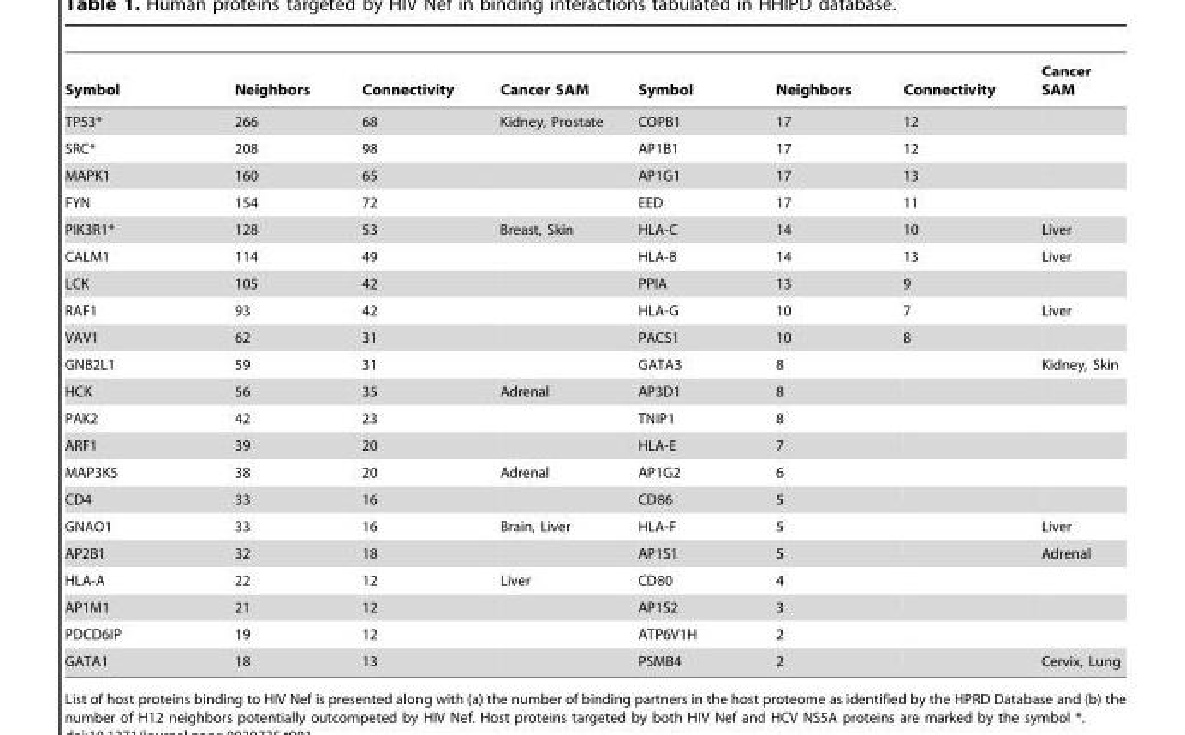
<table><thead><tr><td>Symbol</td><td>Neighbors</td><td>Connectivity</td><td>Cancer SAM</td><td>Symbol</td><td>Neighbors</td><td>Connectivity</td><td>Cancer SAM</td></tr></thead><tbody><tr><td>TP53*</td><td>266</td><td>68</td><td>Kidney, Prostate</td><td>COPB1</td><td>17</td><td>12</td><td></td></tr><tr><td>SRC*</td><td>208</td><td>98</td><td></td><td>AP1B1</td><td>17</td><td>12</td><td></td></tr><tr><td>MAPK1</td><td>160</td><td>65</td><td></td><td>AP1G1</td><td>17</td><td>13</td><td></td></tr><tr><td>FYN</td><td>154</td><td>72</td><td></td><td>EED</td><td>17</td><td>11</td><td></td></tr><tr><td>PIK3R1*</td><td>128</td><td>53</td><td>Breast, Skin</td><td>HLA-C</td><td>14</td><td>10</td><td>Liver</td></tr><tr><td>CALM1</td><td>114</td><td>49</td><td></td><td>HLA-B</td><td>14</td><td>13</td><td>Liver</td></tr><tr><td>LCK</td><td>105</td><td>42</td><td></td><td>PPIA</td><td>13</td><td>9</td><td></td></tr><tr><td>RAF1</td><td>93</td><td>42</td><td></td><td>HLA-G</td><td>10</td><td>7</td><td>Liver</td></tr><tr><td>VAV1</td><td>62</td><td>31</td><td></td><td>PACS1</td><td>10</td><td>8</td><td></td></tr><tr><td>GNB2L1</td><td>59</td><td>31</td><td></td><td>GATA3</td><td>8</td><td></td><td>Kidney, Skin</td></tr><tr><td>HCK</td><td>56</td><td>35</td><td>Adrenal</td><td>AP3D1</td><td>8</td><td></td><td></td></tr><tr><td>PAK2</td><td>42</td><td>23</td><td></td><td>TNIP1</td><td>8</td><td></td><td></td></tr><tr><td>ARF1</td><td>39</td><td>20</td><td></td><td>HLA-E</td><td>7</td><td></td><td></td></tr><tr><td>MAP3K5</td><td>38</td><td>20</td><td>Adrenal</td><td>AP1G2</td><td>6</td><td></td><td></td></tr><tr><td>CD4</td><td>33</td><td>16</td><td></td><td>CD86</td><td>5</td><td></td><td></td></tr><tr><td>GNAO1</td><td>33</td><td>16</td><td>Brain, Liver</td><td>HLA-F</td><td>5</td><td></td><td>Liver</td></tr><tr><td>AP2B1</td><td>32</td><td>18</td><td></td><td>AP1S1</td><td>5</td><td></td><td>Adrenal</td></tr><tr><td>HLA-A</td><td>22</td><td>12</td><td>Liver</td><td>CD80</td><td>4</td><td></td><td></td></tr><tr><td>AP1M1</td><td>21</td><td>12</td><td></td><td>AP1S2</td><td>3</td><td></td><td></td></tr><tr><td>PDCD6IP</td><td>19</td><td>12</td><td></td><td>ATP6V1H</td><td>2</td><td></td><td></td></tr><tr><td>GATA1</td><td>18</td><td>13</td><td></td><td>PSMB4</td><td>2</td><td></td><td>Cervix, Lung</td></tr></tbody></table>